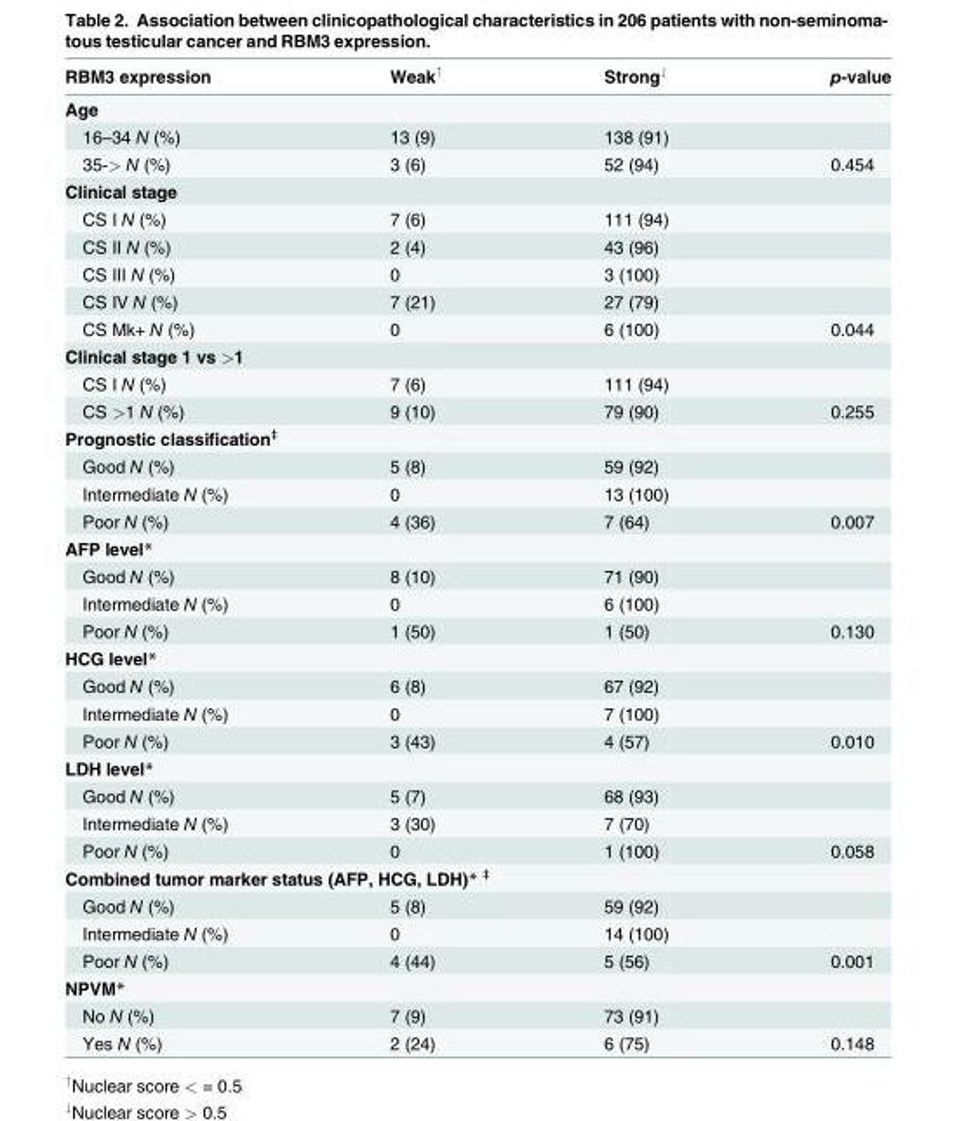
<table><thead><tr><td>RBM3 expression</td><td>Weak↑</td><td>Strong↓</td><td>p-value</td></tr></thead><tbody><tr><td colspan="4">Age</td></tr><tr><td>16–34 N (%)</td><td>13 (9)</td><td>138 (91)</td><td></td></tr><tr><td>35-&gt; N (%)</td><td>3 (6)</td><td>52 (94)</td><td>0.454</td></tr><tr><td colspan="4">Clinical stage</td></tr><tr><td>CS I N (%)</td><td>7 (6)</td><td>111 (94)</td><td></td></tr><tr><td>CS II N (%)</td><td>2 (4)</td><td>43 (96)</td><td></td></tr><tr><td>CS III N (%)</td><td>0</td><td>3 (100)</td><td></td></tr><tr><td>CS IV N (%)</td><td>7 (21)</td><td>27 (79)</td><td></td></tr><tr><td>CS Mk+ N (%)</td><td>0</td><td>6 (100)</td><td>0.044</td></tr><tr><td colspan="4">Clinical stage 1 vs &gt;1</td></tr><tr><td>CS I N (%)</td><td>7 (6)</td><td>111 (94)</td><td></td></tr><tr><td>CS &gt;1 N (%)</td><td>9 (10)</td><td>79 (90)</td><td>0.255</td></tr><tr><td colspan="4">Prognostic classification<sup>‡</sup></td></tr><tr><td>Good N (%)</td><td>5 (8)</td><td>59 (92)</td><td></td></tr><tr><td>Intermediate N (%)</td><td>0</td><td>13 (100)</td><td></td></tr><tr><td>Poor N (%)</td><td>4 (36)</td><td>7 (64)</td><td>0.007</td></tr><tr><td colspan="4">AFP level*</td></tr><tr><td>Good N (%)</td><td>8 (10)</td><td>71 (90)</td><td></td></tr><tr><td>Intermediate N (%)</td><td>0</td><td>6 (100)</td><td></td></tr><tr><td>Poor N (%)</td><td>1 (50)</td><td>1 (50)</td><td>0.130</td></tr><tr><td colspan="4">HCG level*</td></tr><tr><td>Good N (%)</td><td>6 (8)</td><td>67 (92)</td><td></td></tr><tr><td>Intermediate N (%)</td><td>0</td><td>7 (100)</td><td></td></tr><tr><td>Poor N (%)</td><td>3 (43)</td><td>4 (57)</td><td>0.010</td></tr><tr><td colspan="4">LDH level*</td></tr><tr><td>Good N (%)</td><td>5 (7)</td><td>68 (93)</td><td></td></tr><tr><td>Intermediate N (%)</td><td>3 (30)</td><td>7 (70)</td><td></td></tr><tr><td>Poor N (%)</td><td>0</td><td>1 (100)</td><td>0.058</td></tr><tr><td colspan="4">Combined tumor marker status (AFP, HCG, LDH)* <sup>‡</sup></td></tr><tr><td>Good N (%)</td><td>5 (8)</td><td>59 (92)</td><td></td></tr><tr><td>Intermediate N (%)</td><td>0</td><td>14 (100)</td><td></td></tr><tr><td>Poor N (%)</td><td>4 (44)</td><td>5 (56)</td><td>0.001</td></tr><tr><td colspan="4">NPVM*</td></tr><tr><td>No N (%)</td><td>7 (9)</td><td>73 (91)</td><td></td></tr><tr><td>Yes N (%)</td><td>2 (24)</td><td>6 (75)</td><td>0.148</td></tr></tbody></table>